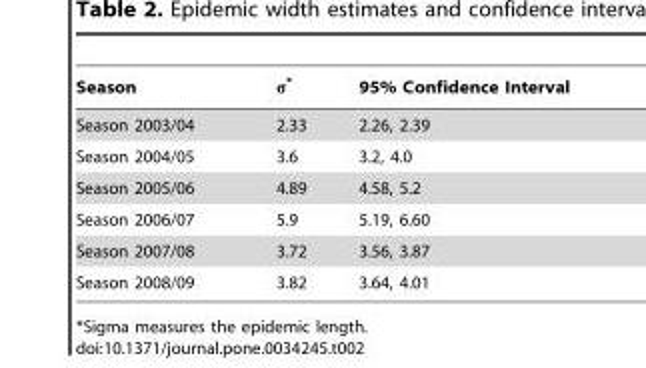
<table><thead><tr><td>Season</td><td>σ*</td><td>95% Confidence Interval</td></tr></thead><tbody><tr><td>Season 2003/04</td><td>2.33</td><td>2.26, 2.39</td></tr><tr><td>Season 2004/05</td><td>3.6</td><td>3.2, 4.0</td></tr><tr><td>Season 2005/06</td><td>4.89</td><td>4.58, 5.2</td></tr><tr><td>Season 2006/07</td><td>5.9</td><td>5.19, 6.60</td></tr><tr><td>Season 2007/08</td><td>3.72</td><td>3.56, 3.87</td></tr><tr><td>Season 2008/09</td><td>3.82</td><td>3.64, 4.01</td></tr></tbody></table>